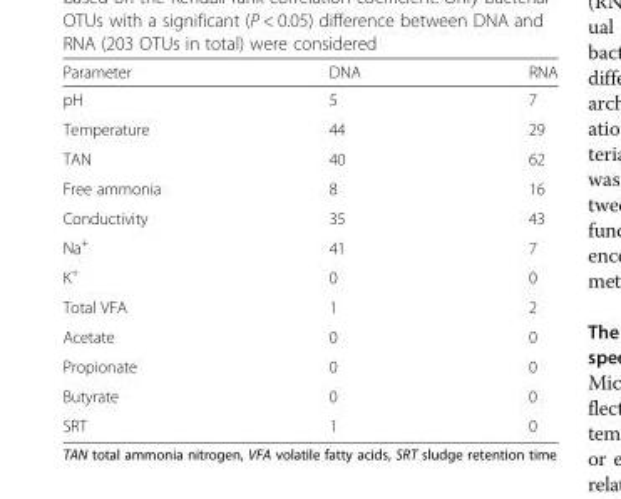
<table><thead><tr><td>Parameter</td><td>DNA</td><td>RNA</td></tr></thead><tbody><tr><td>pH</td><td>5</td><td>7</td></tr><tr><td>Temperature</td><td>44</td><td>29</td></tr><tr><td>TAN</td><td>40</td><td>62</td></tr><tr><td>Free ammonia</td><td>8</td><td>16</td></tr><tr><td>Conductivity</td><td>35</td><td>43</td></tr><tr><td>Na<sup>+</sup></td><td>41</td><td>7</td></tr><tr><td>K<sup>+</sup></td><td>0</td><td>0</td></tr><tr><td>Total VFA</td><td>1</td><td>2</td></tr><tr><td>Acetate</td><td>0</td><td>0</td></tr><tr><td>Propionate</td><td>0</td><td>0</td></tr><tr><td>Butyrate</td><td>0</td><td>0</td></tr><tr><td>SRT</td><td>1</td><td>0</td></tr></tbody></table>